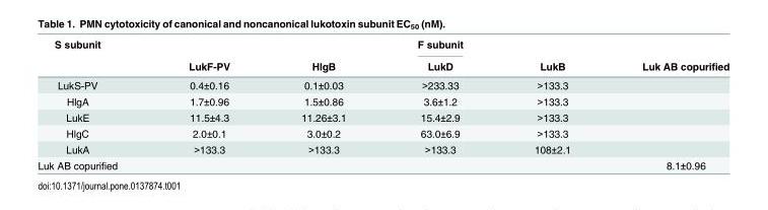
<table><thead><tr><td rowspan="2">S subunit</td><td rowspan="2">LukF-PV</td><td rowspan="2">HlgB</td><td rowspan="2">F subunit LukD</td><td rowspan="2">LukB</td><td rowspan="2">Luk AB copurified</td></tr><tr></tr></thead><tbody><tr><td>LukS-PV</td><td>0.4±0.16</td><td>0.1±0.03</td><td>&gt;233.33</td><td>&gt;133.3</td><td></td></tr><tr><td>HlgA</td><td>1.7±0.96</td><td>1.5±0.86</td><td>3.6±1.2</td><td>&gt;133.3</td><td></td></tr><tr><td>LukE</td><td>11.5±4.3</td><td>11.26±3.1</td><td>15.4±2.9</td><td>&gt;133.3</td><td></td></tr><tr><td>HlgC</td><td>2.0±0.1</td><td>3.0±0.2</td><td>63.0±6.9</td><td>&gt;133.3</td><td></td></tr><tr><td>LukA</td><td>&gt;133.3</td><td>&gt;133.3</td><td>&gt;133.3</td><td>108±2.1</td><td></td></tr><tr><td>Luk AB copurified</td><td></td><td></td><td></td><td></td><td>8.1±0.96</td></tr></tbody></table>